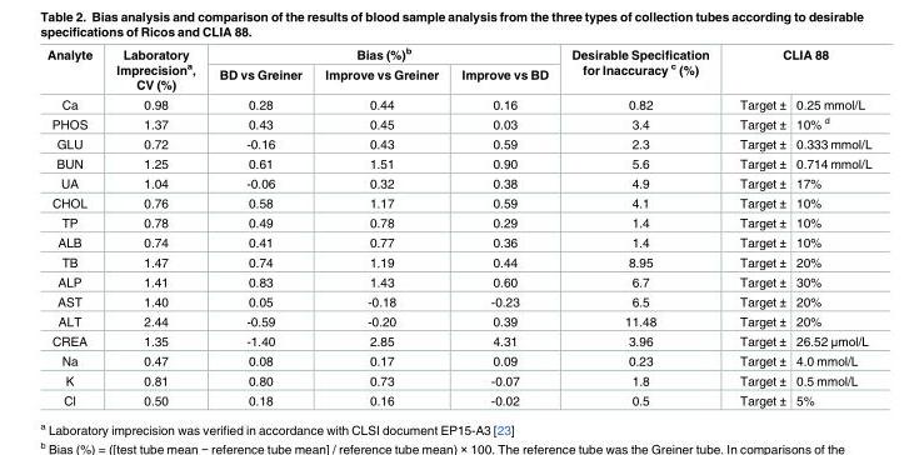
<table><thead><tr><td rowspan="3">Analyte Ca</td><td rowspan="3">Laboratory Imprecision<sup>a</sup>, CV (%) 0.98</td><td colspan="3">Bias (%)<sup>b</sup></td><td rowspan="3">Desirable Specification for Inaccuracy <sup>c</sup> (%) 0.82</td><td rowspan="2" colspan="2">CLIA 88</td></tr><tr><td rowspan="2">BD vs Greiner 0.28</td><td rowspan="2">Improve vs Greiner 0.44</td><td rowspan="2">Improve vs BD 0.16</td></tr><tr><td>Target ±</td><td>0.25 mmol/L</td></tr></thead><tbody><tr><td>PHOS</td><td>1.37</td><td>0.43</td><td>0.45</td><td>0.03</td><td>3.4</td><td>Target ±</td><td>10% <sup>d</sup></td></tr><tr><td>GLU</td><td>0.72</td><td>-0.16</td><td>0.43</td><td>0.59</td><td>2.3</td><td>Target ±</td><td>0.333 mmol/L</td></tr><tr><td>BUN</td><td>1.25</td><td>0.61</td><td>1.51</td><td>0.90</td><td>5.6</td><td>Target ±</td><td>0.714 mmol/L</td></tr><tr><td>UA</td><td>1.04</td><td>-0.06</td><td>0.32</td><td>0.38</td><td>4.9</td><td>Target ±</td><td>17%</td></tr><tr><td>CHOL</td><td>0.76</td><td>0.58</td><td>1.17</td><td>0.59</td><td>4.1</td><td>Target ±</td><td>10%</td></tr><tr><td>TP</td><td>0.78</td><td>0.49</td><td>0.78</td><td>0.29</td><td>1.4</td><td>Target ±</td><td>10%</td></tr><tr><td>ALB</td><td>0.74</td><td>0.41</td><td>0.77</td><td>0.36</td><td>1.4</td><td>Target ±</td><td>10%</td></tr><tr><td>TB</td><td>1.47</td><td>0.74</td><td>1.19</td><td>0.44</td><td>8.95</td><td>Target ±</td><td>20%</td></tr><tr><td>ALP</td><td>1.41</td><td>0.83</td><td>1.43</td><td>0.60</td><td>6.7</td><td>Target ±</td><td>30%</td></tr><tr><td>AST</td><td>1.40</td><td>0.05</td><td>-0.18</td><td>-0.23</td><td>6.5</td><td>Target ±</td><td>20%</td></tr><tr><td>ALT</td><td>2.44</td><td>-0.59</td><td>-0.20</td><td>0.39</td><td>11.48</td><td>Target ±</td><td>20%</td></tr><tr><td>CREA</td><td>1.35</td><td>-1.40</td><td>2.85</td><td>4.31</td><td>3.96</td><td>Target ±</td><td>26.52 μmol/L</td></tr><tr><td>Na</td><td>0.47</td><td>0.08</td><td>0.17</td><td>0.09</td><td>0.23</td><td>Target ±</td><td>4.0 mmol/L</td></tr><tr><td>K</td><td>0.81</td><td>0.80</td><td>0.73</td><td>-0.07</td><td>1.8</td><td>Target ±</td><td>0.5 mmol/L</td></tr><tr><td>Cl</td><td>0.50</td><td>0.18</td><td>0.16</td><td>-0.02</td><td>0.5</td><td>Target ±</td><td>5%</td></tr></tbody></table>